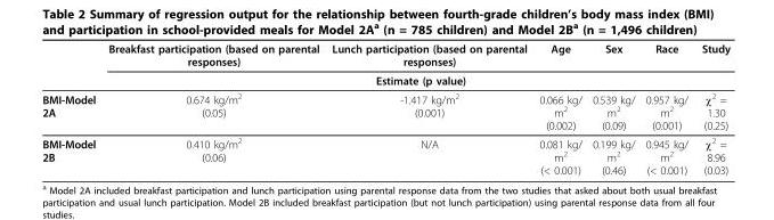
<table><thead><tr><td rowspan="2"></td><td>Breakfast participation (based on parental responses)</td><td>Lunch participation (based on parental responses)</td><td>Age</td><td>Sex</td><td>Race</td><td>Study</td></tr><tr><td colspan="6">Estimate (p value)</td></tr></thead><tbody><tr><td>BMI-Model 2A</td><td>0.674 kg/m<sup>2</sup> (0.05)</td><td>-1.417 kg/m<sup>2</sup> (0.001)</td><td>0.066 kg/ m<sup>2</sup> (0.002)</td><td>0.539 kg/ m<sup>2</sup> (0.09)</td><td>0.957 kg/ m<sup>2</sup> (0.001)</td><td>χ<sup>2</sup> = 1.30 (0.25)</td></tr><tr><td>BMI-Model 2B</td><td>0.410 kg/m<sup>2</sup> (0.06)</td><td>N/A</td><td>0.081 kg/ m<sup>2</sup> (&lt; 0.001)</td><td>0.199 kg/ m<sup>2</sup> (0.46)</td><td>0.945 kg/ m<sup>2</sup> (&lt; 0.001)</td><td>χ<sup>2</sup> = 8.96 (0.03)</td></tr></tbody></table>